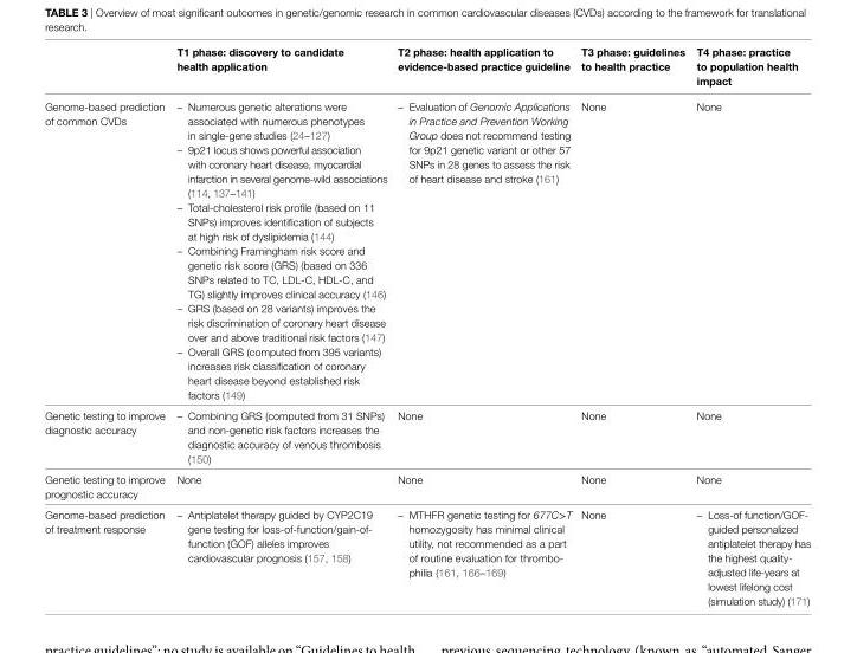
<table><thead><tr><td></td><td>T1 phase: discovery to candidate health application</td><td>T2 phase: health application to evidence-based practice guideline</td><td>T3 phase: guidelines to health practice</td><td>T4 phase: practice to population health impact</td></tr></thead><tbody><tr><td>Genome-based prediction of common CVDs</td><td>– Numerous genetic alterations were associated with numerous phenotypes in single-gene studies (24–127) – 9p21 locus shows powerful association with coronary heart disease, myocardial infarction in several genome-wild associations (114, 137–141) – Total-cholesterol risk profile (based on 11 SNPs) improves identification of subjects at high risk of dyslipidemia (144) – Combining Framingham risk score and genetic risk score (GRS) (based on 336 SNPs related to TC, LDL-C, HDL-C, and TG) slightly improves clinical accuracy (146) – GRS (based on 28 variants) improves the risk discrimination of coronary heart disease over and above traditional risk factors (147) – Overall GRS (computed from 395 variants) increases risk classification of coronary heart disease beyond established risk factors (149)</td><td>– Evaluation of Genomic Applications in Practice and Prevention Working Group does not recommend testing for 9p21 genetic variant or other 57 SNPs in 28 genes to assess the risk of heart disease and stroke (161)</td><td>None</td><td>None</td></tr><tr><td>Genetic testing to improve diagnostic accuracy</td><td>– Combining GRS (computed from 31 SNPs) and non-genetic risk factors increases the diagnostic accuracy of venous thrombosis (150)</td><td>None</td><td>None</td><td>None</td></tr><tr><td>Genetic testing to improve prognostic accuracy</td><td>None</td><td>None</td><td>None</td><td>None</td></tr><tr><td>Genome-based prediction of treatment response</td><td>– Antiplatelet therapy guided by CYP2C19 gene testing for loss-of-function/gain-of- function (GOF) alleles improves cardiovascular prognosis (157, 158)</td><td>– MTHFR genetic testing for 677C&gt;T homozygosity has minimal clinical utility, not recommended as a part of routine evaluation for thrombo- philia (161, 166–169)</td><td>None</td><td>– Loss-of function/GOF- guided personalized antiplatelet therapy has the highest quality- adjusted life-years at lowest lifelong cost (simulation study) (171)</td></tr></tbody></table>